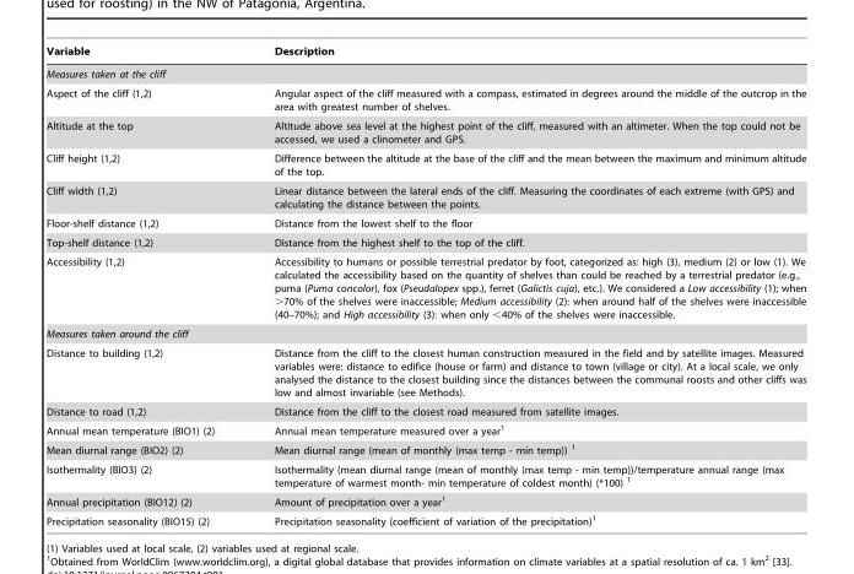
<table><thead><tr><td>Variable</td><td>Description</td></tr></thead><tbody><tr><td colspan="2">Measures taken at the cliff</td></tr><tr><td>Aspect of the cliff (1,2)</td><td>Angular aspect of the cliff measured with a compass, estimated in degrees around the middle of the outcrop in the area with greatest number of shelves.</td></tr><tr><td>Altitude at the top</td><td>Altitude above sea level at the highest point of the cliff, measured with an altimeter. When the top could not be accessed, we used a clinometer and GPS.</td></tr><tr><td>Cliff height (1,2)</td><td>Difference between the altitude at the base of the cliff and the mean between the maximum and minimum altitude of the top.</td></tr><tr><td>Cliff width (1,2)</td><td>Linear distance between the lateral ends of the cliff. Measuring the coordinates of each extreme (with GPS) and calculating the distance between the points.</td></tr><tr><td>Floor-shelf distance (1,2)</td><td>Distance from the lowest shelf to the floor</td></tr><tr><td>Top-shelf distance (1,2)</td><td>Distance from the highest shelf to the top of the cliff.</td></tr><tr><td>Accessibility (1,2)</td><td>Accessibility to humans or possible terrestrial predator by foot, categorized as: high (3), medium (2) or low (1). We calculated the accessibility based on the quantity of shelves than could be reached by a terrestrial predator (e.g., puma (Puma concolor), fox (Pseudalopex spp.), ferret (Galictis cuja), etc.). We considered a Low accessibility (1); when &gt;70% of the shelves were inaccessible; Medium accessibility (2): when around half of the shelves were inaccessible (40–70%); and High accessibility (3): when only &lt;40% of the shelves were inaccessible.</td></tr><tr><td colspan="2">Measures taken around the cliff</td></tr><tr><td>Distance to building (1,2)</td><td>Distance from the cliff to the closest human construction measured in the field and by satellite images. Measured variables were: distance to edifice (house or farm) and distance to town (village or city). At a local scale, we only analysed the distance to the closest building since the distances between the communal roosts and other cliffs was low and almost invariable (see Methods).</td></tr><tr><td>Distance to road (1,2)</td><td>Distance from the cliff to the closest road measured from satellite images.</td></tr><tr><td>Annual mean temperature (BIO1) (2)</td><td>Annual mean temperature measured over a year<sup>1</sup></td></tr><tr><td>Mean diurnal range (BIO2) (2)</td><td>Mean diurnal range (mean of monthly (max temp - min temp)) 1</td></tr><tr><td>Isothermality (BIO3) (2)</td><td>Isothermality (mean diurnal range (mean of monthly (max temp - min temp))/temperature annual range (max temperature of warmest month- min temperature of coldest month) (*100) 1</td></tr><tr><td>Annual precipitation (BIO12) (2)</td><td>Amount of precipitation over a year<sup>1</sup></td></tr><tr><td>Precipitation seasonality (BIO15) (2)</td><td>Precipitation seasonality (coefficient of variation of the precipitation)<sup>1</sup></td></tr></tbody></table>